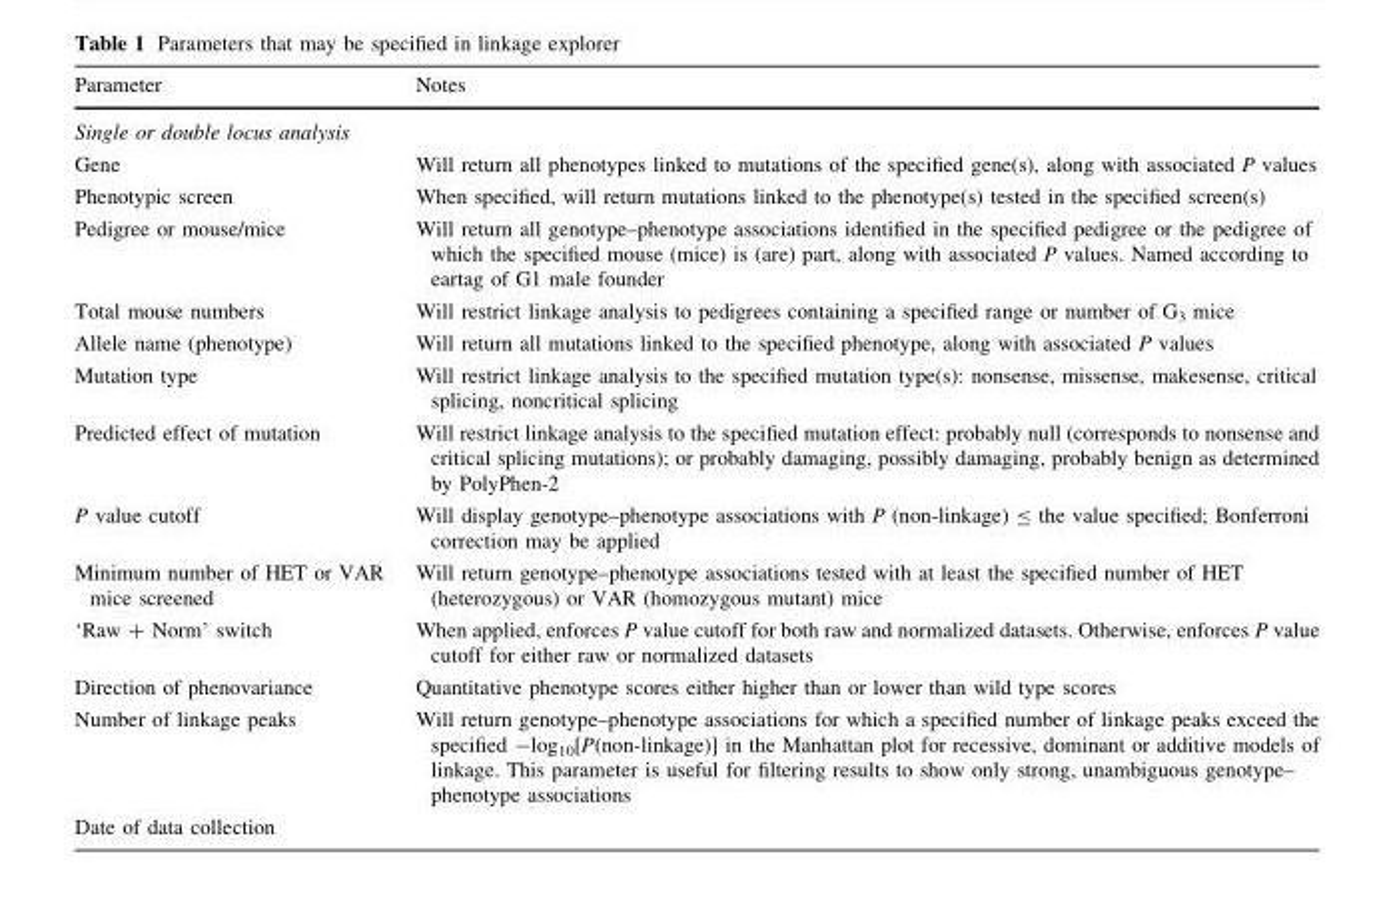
<table><thead><tr><td>Parameter</td><td>Notes</td></tr></thead><tbody><tr><td colspan="2">Single or double locus analysis</td></tr><tr><td>Gene</td><td>Will return all phenotypes linked to mutations of the specified gene(s), along with associated P values</td></tr><tr><td>Phenotypic screen</td><td>When specified, will return mutations linked to the phenotype(s) tested in the specified screen(s)</td></tr><tr><td>Pedigree or mouse/mice</td><td>Will return all genotype–phenotype associations identified in the specified pedigree or the pedigree of which the specified mouse (mice) is (are) part, along with associated P values. Named according to eartag of G1 male founder</td></tr><tr><td>Total mouse numbers</td><td>Will restrict linkage analysis to pedigrees containing a specified range or number of G<sub>3</sub> mice</td></tr><tr><td>Allele name (phenotype)</td><td>Will return all mutations linked to the specified phenotype, along with associated P values</td></tr><tr><td>Mutation type</td><td>Will restrict linkage analysis to the specified mutation type(s): nonsense, missense, makesense, critical splicing, noncritical splicing</td></tr><tr><td>Predicted effect of mutation</td><td>Will restrict linkage analysis to the specified mutation effect: probably null (corresponds to nonsense and critical splicing mutations); or probably damaging, possibly damaging, probably benign as determined by PolyPhen-2</td></tr><tr><td>P value cutoff</td><td>Will display genotype–phenotype associations with P (non-linkage) ≤ the value specified; Bonferroni correction may be applied</td></tr><tr><td>Minimum number of HET or VAR mice screened</td><td>Will return genotype–phenotype associations tested with at least the specified number of HET (heterozygous) or VAR (homozygous mutant) mice</td></tr><tr><td>‘Raw + Norm’ switch</td><td>When applied, enforces P value cutoff for both raw and normalized datasets. Otherwise, enforces P value cutoff for either raw or normalized datasets</td></tr><tr><td>Direction of phenovariance</td><td>Quantitative phenotype scores either higher than or lower than wild type scores</td></tr><tr><td>Number of linkage peaks</td><td>Will return genotype–phenotype associations for which a specified number of linkage peaks exceed the specified -log<sub>10</sub>[P(non-linkage)] in the Manhattan plot for recessive, dominant or additive models of linkage. This parameter is useful for filtering results to show only strong, unambiguous genotype– phenotype associations</td></tr><tr><td>Date of data collection</td><td></td></tr></tbody></table>